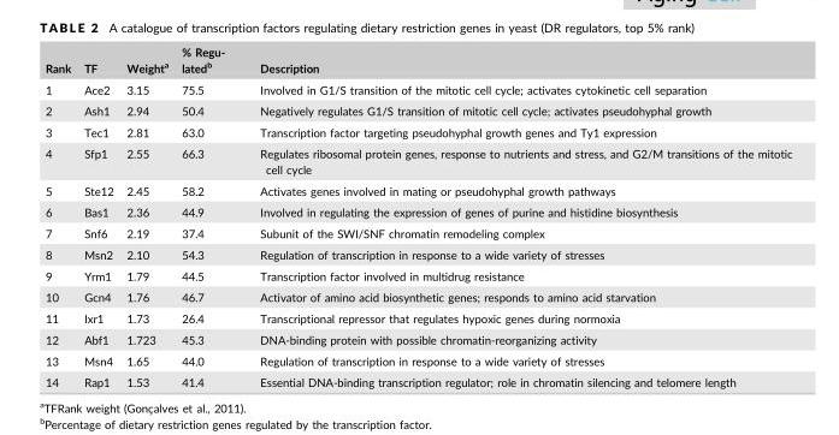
<table><thead><tr><td>Rank</td><td>TF</td><td>Weight<sup>a</sup></td><td>% Regu- latedb</td><td>Description</td></tr></thead><tbody><tr><td>1</td><td>Ace2</td><td>3.15</td><td>75.5</td><td>Involved in G1/S transition of the mitotic cell cycle; activates cytokinetic cell separation</td></tr><tr><td>2</td><td>Ash1</td><td>2.94</td><td>50.4</td><td>Negatively regulates G1/S transition of mitotic cell cycle; activates pseudohyphal growth</td></tr><tr><td>3</td><td>Tec1</td><td>2.81</td><td>63.0</td><td>Transcription factor targeting pseudohyphal growth genes and Ty1 expression</td></tr><tr><td>4</td><td>Sfp1</td><td>2.55</td><td>66.3</td><td>Regulates ribosomal protein genes, response to nutrients and stress, and G2/M transitions of the mitotic cell cycle</td></tr><tr><td>5</td><td>Ste12</td><td>2.45</td><td>58.2</td><td>Activates genes involved in mating or pseudohyphal growth pathways</td></tr><tr><td>6</td><td>Bas1</td><td>2.36</td><td>44.9</td><td>Involved in regulating the expression of genes of purine and histidine biosynthesis</td></tr><tr><td>7</td><td>Snf6</td><td>2.19</td><td>37.4</td><td>Subunit of the SWI/SNF chromatin remodeling complex</td></tr><tr><td>8</td><td>Msn2</td><td>2.10</td><td>54.3</td><td>Regulation of transcription in response to a wide variety of stresses</td></tr><tr><td>9</td><td>Yrm1</td><td>1.79</td><td>44.5</td><td>Transcription factor involved in multidrug resistance</td></tr><tr><td>10</td><td>Gcn4</td><td>1.76</td><td>46.7</td><td>Activator of amino acid biosynthetic genes; responds to amino acid starvation</td></tr><tr><td>11</td><td>Ixr1</td><td>1.73</td><td>26.4</td><td>Transcriptional repressor that regulates hypoxic genes during normoxia</td></tr><tr><td>12</td><td>Abf1</td><td>1.723</td><td>45.3</td><td>DNA-binding protein with possible chromatin-reorganizing activity</td></tr><tr><td>13</td><td>Msn4</td><td>1.65</td><td>44.0</td><td>Regulation of transcription in response to a wide variety of stresses</td></tr><tr><td>14</td><td>Rap1</td><td>1.53</td><td>41.4</td><td>Essential DNA-binding transcription regulator; role in chromatin silencing and telomere length</td></tr></tbody></table>